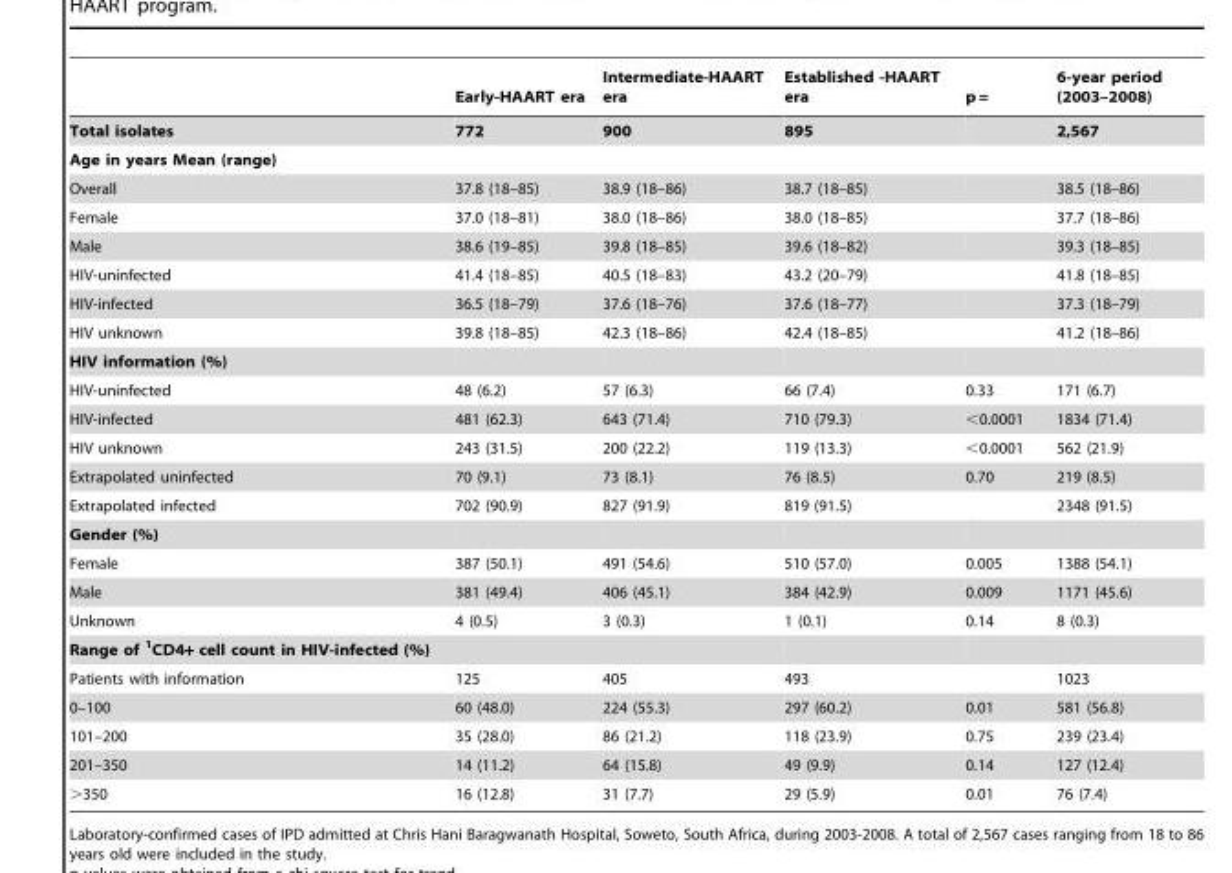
<table><thead><tr><td></td><td>Early-HAART era</td><td>Intermediate-HAART era</td><td>Established -HAART era</td><td>p =</td><td>6-year period (2003–2008)</td></tr></thead><tbody><tr><td>Total isolates</td><td>772</td><td>900</td><td>895</td><td></td><td>2,567</td></tr><tr><td colspan="6">Age in years Mean (range)</td></tr><tr><td>Overall</td><td>37.8 (18–85)</td><td>38.9 (18–86)</td><td>38.7 (18–85)</td><td></td><td>38.5 (18–86)</td></tr><tr><td>Female</td><td>37.0 (18–81)</td><td>38.0 (18–86)</td><td>38.0 (18–85)</td><td></td><td>37.7 (18–86)</td></tr><tr><td>Male</td><td>38.6 (19–85)</td><td>39.8 (18–85)</td><td>39.6 (18–82)</td><td></td><td>39.3 (18–85)</td></tr><tr><td>HIV-uninfected</td><td>41.4 (18–85)</td><td>40.5 (18–83)</td><td>43.2 (20–79)</td><td></td><td>41.8 (18–85)</td></tr><tr><td>HIV-infected</td><td>36.5 (18–79)</td><td>37.6 (18–76)</td><td>37.6 (18–77)</td><td></td><td>37.3 (18–79)</td></tr><tr><td>HIV unknown</td><td>39.8 (18–85)</td><td>42.3 (18–86)</td><td>42.4 (18–85)</td><td></td><td>41.2 (18–86)</td></tr><tr><td colspan="6">HIV information (%)</td></tr><tr><td>HIV-uninfected</td><td>48 (6.2)</td><td>57 (6.3)</td><td>66 (7.4)</td><td>0.33</td><td>171 (6.7)</td></tr><tr><td>HIV-infected</td><td>481 (62.3)</td><td>643 (71.4)</td><td>710 (79.3)</td><td>&lt;0.0001</td><td>1834 (71.4)</td></tr><tr><td>HIV unknown</td><td>243 (31.5)</td><td>200 (22.2)</td><td>119 (13.3)</td><td>&lt;0.0001</td><td>562 (21.9)</td></tr><tr><td>Extrapolated uninfected</td><td>70 (9.1)</td><td>73 (8.1)</td><td>76 (8.5)</td><td>0.70</td><td>219 (8.5)</td></tr><tr><td>Extrapolated infected</td><td>702 (90.9)</td><td>827 (91.9)</td><td>819 (91.5)</td><td></td><td>2348 (91.5)</td></tr><tr><td colspan="6">Gender (%)</td></tr><tr><td>Female</td><td>387 (50.1)</td><td>491 (54.6)</td><td>510 (57.0)</td><td>0.005</td><td>1388 (54.1)</td></tr><tr><td>Male</td><td>381 (49.4)</td><td>406 (45.1)</td><td>384 (42.9)</td><td>0.009</td><td>1171 (45.6)</td></tr><tr><td>Unknown</td><td>4 (0.5)</td><td>3 (0.3)</td><td>1 (0.1)</td><td>0.14</td><td>8 (0.3)</td></tr><tr><td colspan="6">Range of 1CD4+ cell count in HIV-infected (%)</td></tr><tr><td>Patients with information</td><td>125</td><td>405</td><td>493</td><td></td><td>1023</td></tr><tr><td>0–100</td><td>60 (48.0)</td><td>224 (55.3)</td><td>297 (60.2)</td><td>0.01</td><td>581 (56.8)</td></tr><tr><td>101–200</td><td>35 (28.0)</td><td>86 (21.2)</td><td>118 (23.9)</td><td>0.75</td><td>239 (23.4)</td></tr><tr><td>201–350</td><td>14 (11.2)</td><td>64 (15.8)</td><td>49 (9.9)</td><td>0.14</td><td>127 (12.4)</td></tr><tr><td>&gt;350</td><td>16 (12.8)</td><td>31 (7.7)</td><td>29 (5.9)</td><td>0.01</td><td>76 (7.4)</td></tr></tbody></table>